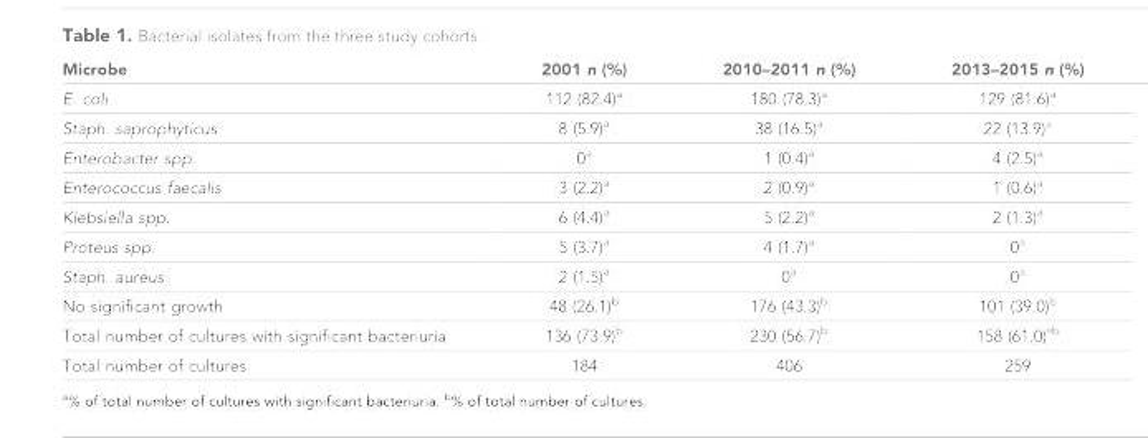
<table><thead><tr><td>Microbe</td><td>2001 n (%)</td><td>2010–2011 n (%)</td><td>2013–2015 n (%)</td></tr></thead><tbody><tr><td>E. coli</td><td>112 (82.4)<sup>a</sup></td><td>180 (78.3)<sup>a</sup></td><td>129 (81.6)<sup>a</sup></td></tr><tr><td>Staph. saprophyticus</td><td>8 (5.9)<sup>a</sup></td><td>38 (16.5)<sup>a</sup></td><td>22 (13.9)<sup>a</sup></td></tr><tr><td>Enterobacter spp.</td><td>0<sup>a</sup></td><td>1 (0.4)<sup>a</sup></td><td>4 (2.5)<sup>a</sup></td></tr><tr><td>Enterococcus faecalis</td><td>3 (2.2)<sup>a</sup></td><td>2 (0.9)<sup>a</sup></td><td>1 (0.6)<sup>a</sup></td></tr><tr><td>Klebsiella spp.</td><td>6 (4.4)<sup>a</sup></td><td>5 (2.2)<sup>a</sup></td><td>2 (1.3)<sup>a</sup></td></tr><tr><td>Proteus spp.</td><td>5 (3.7)<sup>a</sup></td><td>4 (1.7)<sup>a</sup></td><td>0<sup>a</sup></td></tr><tr><td>Staph. aureus</td><td>2 (1.5)<sup>a</sup></td><td>0<sup>a</sup></td><td>0<sup>a</sup></td></tr><tr><td>No significant growth</td><td>48 (26.1)<sup>b</sup></td><td>176 (43.3)<sup>b</sup></td><td>101 (39.0)<sup>b</sup></td></tr><tr><td>Total number of cultures with significant bacteriuria</td><td>136 (73.9)<sup>b</sup></td><td>230 (56.7)<sup>b</sup></td><td>158 (61.0)˚ b</td></tr><tr><td>Total number of cultures</td><td>184</td><td>406</td><td>259</td></tr></tbody></table>